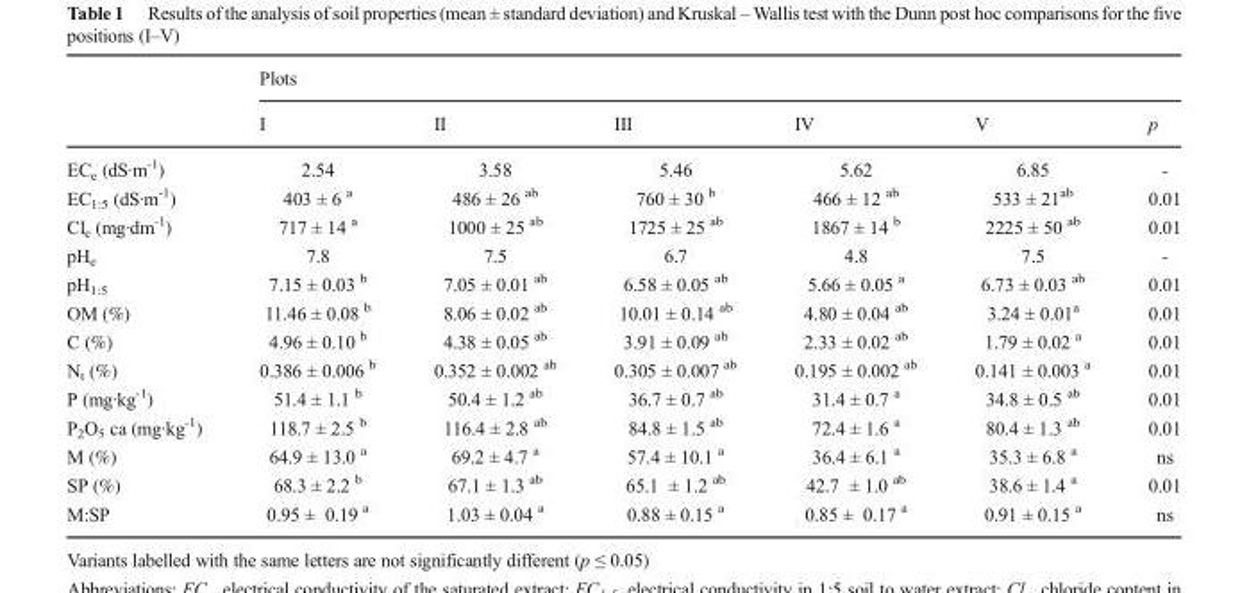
<table><thead><tr><td rowspan="2"></td><td colspan="6">Plots</td></tr><tr><td>I</td><td>II</td><td>III</td><td>IV</td><td>V</td><td>p</td></tr></thead><tbody><tr><td>EC<sub>e</sub> (dS·m<sup>-1</sup>)</td><td>2.54</td><td>3.58</td><td>5.46</td><td>5.62</td><td>6.85</td><td>-</td></tr><tr><td>EC<sub>1:5</sub> (dS·m<sup>-1</sup>)</td><td>403 ± 6 <sup>a</sup></td><td>486 ± 26 <sup>ab</sup></td><td>760 ± 30 <sup>b</sup></td><td>466 ± 12 <sup>ab</sup></td><td>533 ± 21<sup>ab</sup></td><td>0.01</td></tr><tr><td>Cl<sub>e</sub> (mg·dm<sup>-1</sup>)</td><td>717 ± 14 <sup>a</sup></td><td>1000 ± 25 <sup>ab</sup></td><td>1725 ± 25 <sup>ab</sup></td><td>1867 ± 14 <sup>b</sup></td><td>2225 ± 50 <sup>ab</sup></td><td>0.01</td></tr><tr><td>pH<sub>e</sub></td><td>7.8</td><td>7.5</td><td>6.7</td><td>4.8</td><td>7.5</td><td>-</td></tr><tr><td>pH<sub>1:5</sub></td><td>7.15 ± 0.03 <sup>b</sup></td><td>7.05 ± 0.01 <sup>ab</sup></td><td>6.58 ± 0.05 <sup>ab</sup></td><td>5.66 ± 0.05 <sup>a</sup></td><td>6.73 ± 0.03 <sup>ab</sup></td><td>0.01</td></tr><tr><td>OM (%)</td><td>11.46 ± 0.08 <sup>b</sup></td><td>8.06 ± 0.02 <sup>ab</sup></td><td>10.01 ± 0.14 <sup>ab</sup></td><td>4.80 ± 0.04 <sup>ab</sup></td><td>3.24 ± 0.01<sup>a</sup></td><td>0.01</td></tr><tr><td>C (%)</td><td>4.96 ± 0.10 <sup>b</sup></td><td>4.38 ± 0.05 <sup>ab</sup></td><td>3.91 ± 0.09 <sup>ab</sup></td><td>2.33 ± 0.02 <sup>ab</sup></td><td>1.79 ± 0.02 <sup>a</sup></td><td>0.01</td></tr><tr><td>N<sub>t</sub> (%)</td><td>0.386 ± 0.006 <sup>b</sup></td><td>0.352 ± 0.002 <sup>ab</sup></td><td>0.305 ± 0.007 <sup>ab</sup></td><td>0.195 ± 0.002 <sup>ab</sup></td><td>0.141 ± 0.003 <sup>a</sup></td><td>0.01</td></tr><tr><td>P (mg·kg<sup>-1</sup>)</td><td>51.4 ± 1.1 <sup>b</sup></td><td>50.4 ± 1.2 <sup>ab</sup></td><td>36.7 ± 0.7 <sup>ab</sup></td><td>31.4 ± 0.7 <sup>a</sup></td><td>34.8 ± 0.5 <sup>ab</sup></td><td>0.01</td></tr><tr><td>P<sub>2</sub>O<sub>5</sub> ca (mg·kg<sup>-1</sup>)</td><td>118.7 ± 2.5 <sup>b</sup></td><td>116.4 ± 2.8 <sup>ab</sup></td><td>84.8 ± 1.5 <sup>ab</sup></td><td>72.4 ± 1.6 <sup>a</sup></td><td>80.4 ± 1.3 <sup>ab</sup></td><td>0.01</td></tr><tr><td>M (%)</td><td>64.9 ± 13.0 <sup>a</sup></td><td>69.2 ± 4.7 <sup>a</sup></td><td>57.4 ± 10.1 <sup>a</sup></td><td>36.4 ± 6.1 <sup>a</sup></td><td>35.3 ± 6.8 <sup>a</sup></td><td>ns</td></tr><tr><td>SP (%)</td><td>68.3 ± 2.2 <sup>b</sup></td><td>67.1 ± 1.3 <sup>ab</sup></td><td>65.1 ± 1.2 <sup>ab</sup></td><td>42.7 ± 1.0 <sup>ab</sup></td><td>38.6 ± 1.4 <sup>a</sup></td><td>0.01</td></tr><tr><td>M:SP</td><td>0.95 ± 0.19 <sup>a</sup></td><td>1.03 ± 0.04 <sup>a</sup></td><td>0.88 ± 0.15 <sup>a</sup></td><td>0.85 ± 0.17 <sup>a</sup></td><td>0.91 ± 0.15 <sup>a</sup></td><td>ns</td></tr></tbody></table>